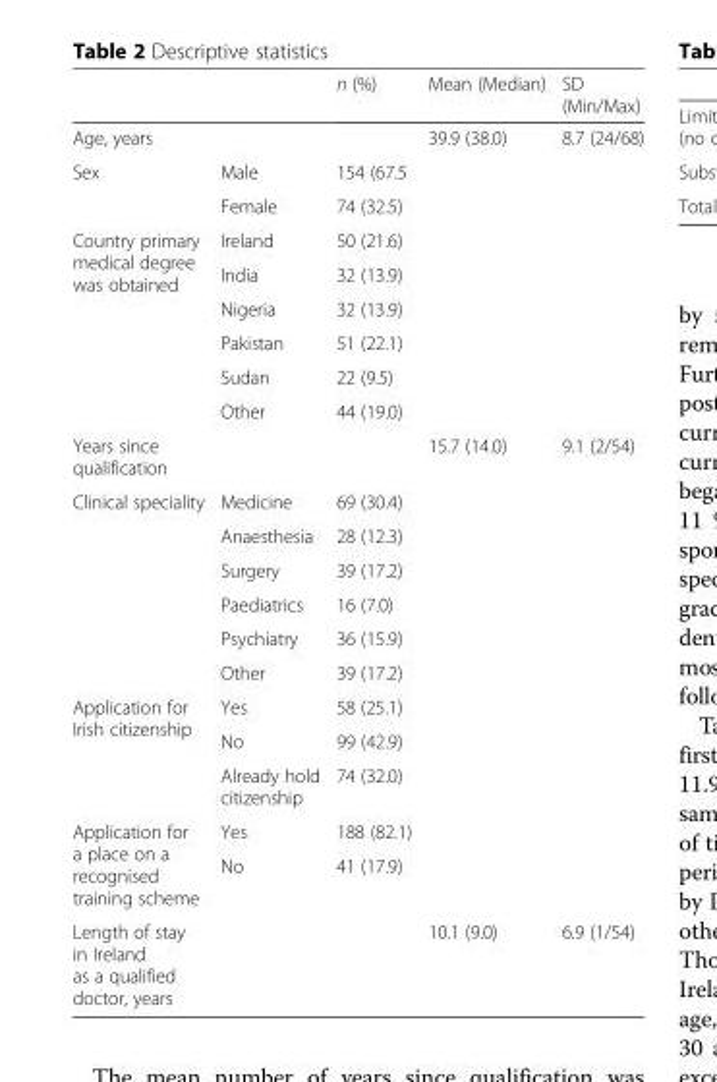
<table><thead><tr><td></td><td></td><td>n (%)</td><td>Mean (Median)</td><td>SD (Min/Max)</td></tr></thead><tbody><tr><td colspan="2">Age, years</td><td></td><td>39.9 (38.0)</td><td>8.7 (24/68)</td></tr><tr><td rowspan="2">Sex</td><td>Male</td><td>154 (67.5</td><td></td><td></td></tr><tr><td>Female</td><td>74 (32.5)</td><td></td><td></td></tr><tr><td rowspan="6">Country primary medical degree was obtained</td><td>Ireland</td><td>50 (21.6)</td><td></td><td></td></tr><tr><td>India</td><td>32 (13.9)</td><td></td><td></td></tr><tr><td>Nigeria</td><td>32 (13.9)</td><td></td><td></td></tr><tr><td>Pakistan</td><td>51 (22.1)</td><td></td><td></td></tr><tr><td>Sudan</td><td>22 (9.5)</td><td></td><td></td></tr><tr><td>Other</td><td>44 (19.0)</td><td></td><td></td></tr><tr><td colspan="2">Years since qualification</td><td></td><td>15.7 (14.0)</td><td>9.1 (2/54)</td></tr><tr><td rowspan="6">Clinical speciality</td><td>Medicine</td><td>69 (30.4)</td><td></td><td></td></tr><tr><td>Anaesthesia</td><td>28 (12.3)</td><td></td><td></td></tr><tr><td>Surgery</td><td>39 (17.2)</td><td></td><td></td></tr><tr><td>Paediatrics</td><td>16 (7.0)</td><td></td><td></td></tr><tr><td>Psychiatry</td><td>36 (15.9)</td><td></td><td></td></tr><tr><td>Other</td><td>39 (17.2)</td><td></td><td></td></tr><tr><td rowspan="3">Application for Irish citizenship</td><td>Yes</td><td>58 (25.1)</td><td></td><td></td></tr><tr><td>No</td><td>99 (42.9)</td><td></td><td></td></tr><tr><td>Already hold citizenship</td><td>74 (32.0)</td><td></td><td></td></tr><tr><td rowspan="2">Application for a place on a recognised training scheme</td><td>Yes</td><td>188 (82.1)</td><td></td><td></td></tr><tr><td>No</td><td>41 (17.9)</td><td></td><td></td></tr><tr><td colspan="2">Length of stay in Ireland as a qualified doctor, years</td><td></td><td>10.1 (9.0)</td><td>6.9 (1/54)</td></tr></tbody></table>